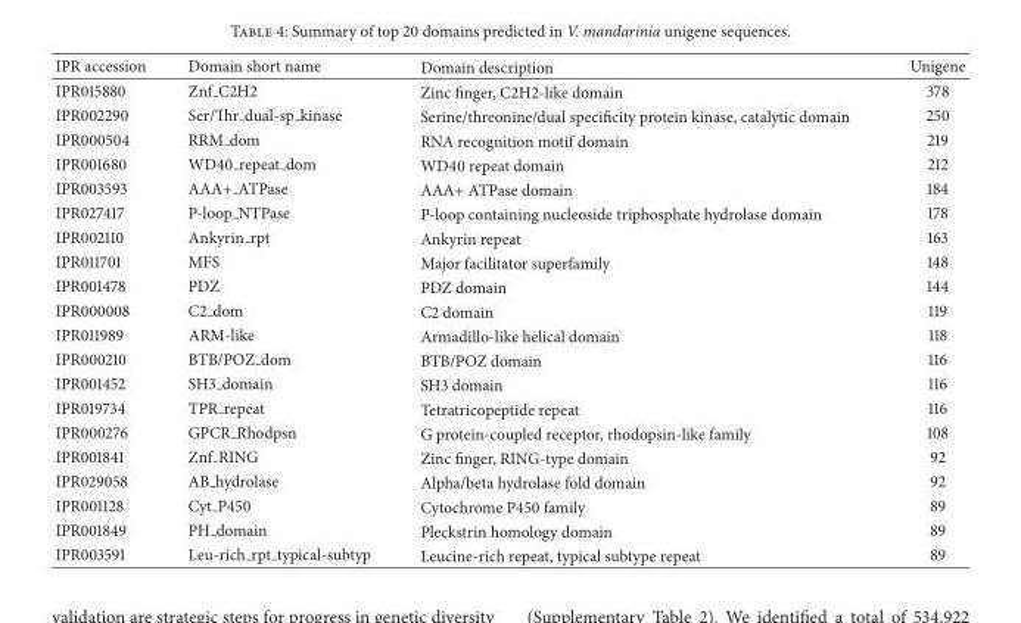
<table><thead><tr><td>IPR accession</td><td>Domain short name</td><td>Domain description</td><td>Unigene</td></tr></thead><tbody><tr><td>IPR015880</td><td>Znf C2H2</td><td>Zinc finger, C2H2-like domain</td><td>378</td></tr><tr><td>IPR002290</td><td>Ser/Thr <sub>dual-sp</sub> kinase</td><td>Serine/threonine/dual specificity protein kinase, catalytic domain</td><td>250</td></tr><tr><td>IPR000504</td><td>RRM dom</td><td>RNA recognition motif domain</td><td>219</td></tr><tr><td>IPR001680</td><td>WD40 <sub>repeat</sub> dom</td><td>WD40 repeat domain</td><td>212</td></tr><tr><td>IPR003593</td><td>AAA+ ATPase</td><td>AAA+ ATPase domain</td><td>184</td></tr><tr><td>IPR027417</td><td>P-loop NTPase</td><td>P-loop containing nucleoside triphosphate hydrolase domain</td><td>178</td></tr><tr><td>IPR002110</td><td>Ankyrin rpt</td><td>Ankyrin repeat</td><td>163</td></tr><tr><td>IPR011701</td><td>MFS</td><td>Major facilitator superfamily</td><td>148</td></tr><tr><td>IPR001478</td><td>PDZ</td><td>PDZ domain</td><td>144</td></tr><tr><td>IPR000008</td><td>C2 dom</td><td>C2 domain</td><td>119</td></tr><tr><td>IPR011989</td><td>ARM-like</td><td>Armadillo-like helical domain</td><td>118</td></tr><tr><td>IPR000210</td><td>BTB/POZ dom</td><td>BTB/POZ domain</td><td>116</td></tr><tr><td>IPR001452</td><td>SH3 domain</td><td>SH3 domain</td><td>116</td></tr><tr><td>IPR019734</td><td>TPR repeat</td><td>Tetratricopeptide repeat</td><td>116</td></tr><tr><td>IPR000276</td><td>GPCR Rhodpsn</td><td>G protein-coupled receptor, rhodopsin-like family</td><td>108</td></tr><tr><td>IPR001841</td><td>Znf RING</td><td>Zinc finger, RING-type domain</td><td>92</td></tr><tr><td>IPR029058</td><td>AB hydrolase</td><td>Alpha/beta hydrolase fold domain</td><td>92</td></tr><tr><td>IPR001128</td><td>Cyt P450</td><td>Cytochrome P450 family</td><td>89</td></tr><tr><td>IPR001849</td><td>PH domain</td><td>Pleckstrin homology domain</td><td>89</td></tr><tr><td>IPR003591</td><td>Leu-rich <sub>rpt</sub> typical-subtyp</td><td>Leucine-rich repeat, typical subtype repeat</td><td>89</td></tr></tbody></table>